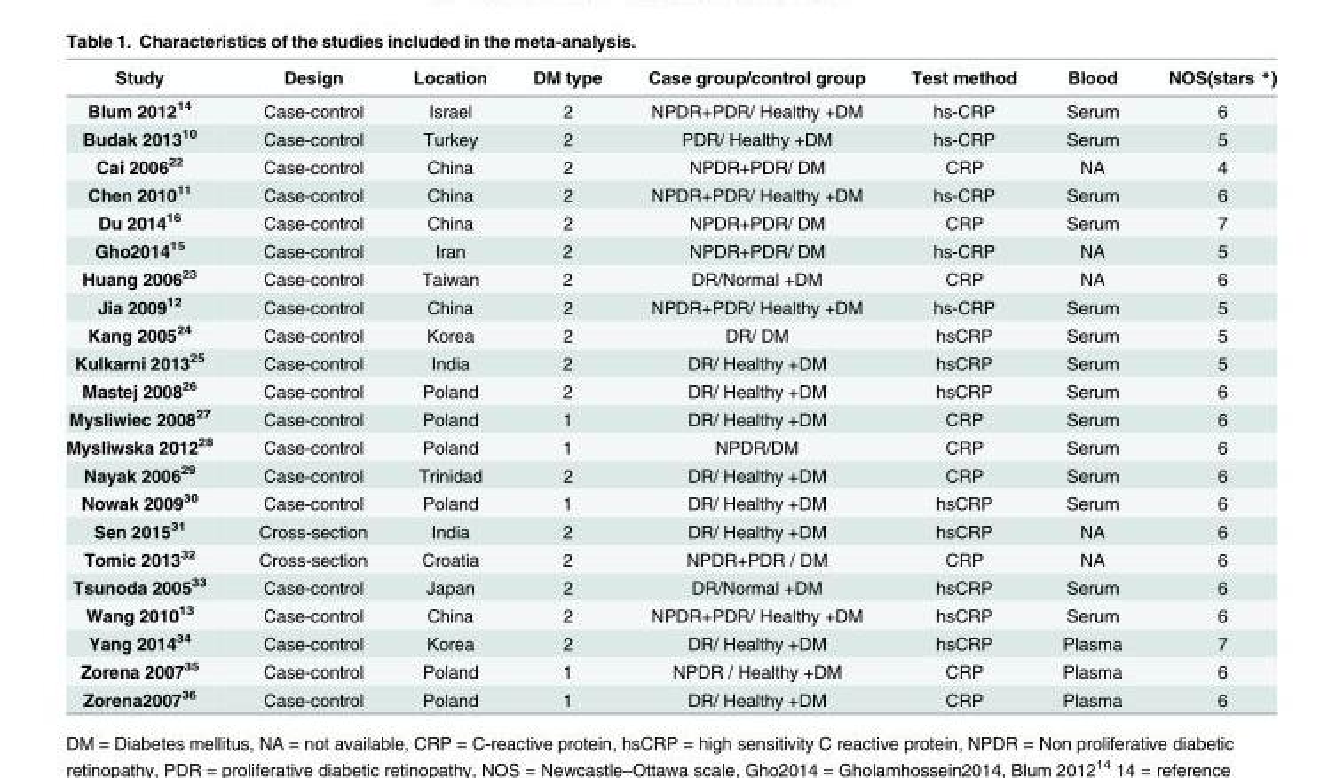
<table><thead><tr><td>Study</td><td>Design</td><td>Location</td><td>DM type</td><td>Case group/control group</td><td>Test method</td><td>Blood</td><td>NOS(stars *)</td></tr></thead><tbody><tr><td>Blum 2012<sup>14</sup></td><td>Case-control</td><td>Israel</td><td>2</td><td>NPDR+PDR/ Healthy +DM</td><td>hs-CRP</td><td>Serum</td><td>6</td></tr><tr><td>Budak 2013<sup>10</sup></td><td>Case-control</td><td>Turkey</td><td>2</td><td>PDR/ Healthy +DM</td><td>hs-CRP</td><td>Serum</td><td>5</td></tr><tr><td>Cai 2006<sup>22</sup></td><td>Case-control</td><td>China</td><td>2</td><td>NPDR+PDR/ DM</td><td>CRP</td><td>NA</td><td>4</td></tr><tr><td>Chen 2010<sup>11</sup></td><td>Case-control</td><td>China</td><td>2</td><td>NPDR+PDR/ Healthy +DM</td><td>hs-CRP</td><td>Serum</td><td>6</td></tr><tr><td>Du 2014<sup>16</sup></td><td>Case-control</td><td>China</td><td>2</td><td>NPDR+PDR/ DM</td><td>CRP</td><td>Serum</td><td>7</td></tr><tr><td>Gho2014<sup>15</sup></td><td>Case-control</td><td>Iran</td><td>2</td><td>NPDR+PDR/ DM</td><td>hs-CRP</td><td>NA</td><td>5</td></tr><tr><td>Huang 2006<sup>23</sup></td><td>Case-control</td><td>Taiwan</td><td>2</td><td>DR/Normal +DM</td><td>CRP</td><td>NA</td><td>6</td></tr><tr><td>Jia 2009<sup>12</sup></td><td>Case-control</td><td>China</td><td>2</td><td>NPDR+PDR/ Healthy +DM</td><td>hs-CRP</td><td>Serum</td><td>5</td></tr><tr><td>Kang 2005<sup>24</sup></td><td>Case-control</td><td>Korea</td><td>2</td><td>DR/ DM</td><td>hsCRP</td><td>Serum</td><td>5</td></tr><tr><td>Kulkarni 2013<sup>25</sup></td><td>Case-control</td><td>India</td><td>2</td><td>DR/ Healthy +DM</td><td>hsCRP</td><td>Serum</td><td>5</td></tr><tr><td>Mastej 2008<sup>26</sup></td><td>Case-control</td><td>Poland</td><td>2</td><td>DR/ Healthy +DM</td><td>hsCRP</td><td>Serum</td><td>6</td></tr><tr><td>Mysliwiec 2008<sup>27</sup></td><td>Case-control</td><td>Poland</td><td>1</td><td>DR/ Healthy +DM</td><td>CRP</td><td>Serum</td><td>6</td></tr><tr><td>Mysliwska 2012<sup>28</sup></td><td>Case-control</td><td>Poland</td><td>1</td><td>NPDR/DM</td><td>CRP</td><td>Serum</td><td>6</td></tr><tr><td>Nayak 2006<sup>29</sup></td><td>Case-control</td><td>Trinidad</td><td>2</td><td>DR/ Healthy +DM</td><td>CRP</td><td>Serum</td><td>6</td></tr><tr><td>Nowak 2009<sup>30</sup></td><td>Case-control</td><td>Poland</td><td>1</td><td>DR/ Healthy +DM</td><td>hsCRP</td><td>Serum</td><td>6</td></tr><tr><td>Sen 2015<sup>31</sup></td><td>Cross-section</td><td>India</td><td>2</td><td>DR/ Healthy +DM</td><td>hsCRP</td><td>NA</td><td>6</td></tr><tr><td>Tomic 2013<sup>32</sup></td><td>Cross-section</td><td>Croatia</td><td>2</td><td>NPDR+PDR / DM</td><td>CRP</td><td>NA</td><td>6</td></tr><tr><td>Tsunoda 2005<sup>33</sup></td><td>Case-control</td><td>Japan</td><td>2</td><td>DR/Normal +DM</td><td>hsCRP</td><td>Serum</td><td>6</td></tr><tr><td>Wang 2010<sup>13</sup></td><td>Case-control</td><td>China</td><td>2</td><td>NPDR+PDR/ Healthy +DM</td><td>hsCRP</td><td>Serum</td><td>6</td></tr><tr><td>Yang 2014<sup>34</sup></td><td>Case-control</td><td>Korea</td><td>2</td><td>DR/ Healthy +DM</td><td>hsCRP</td><td>Plasma</td><td>7</td></tr><tr><td>Zorena 2007<sup>35</sup></td><td>Case-control</td><td>Poland</td><td>1</td><td>NPDR / Healthy +DM</td><td>CRP</td><td>Plasma</td><td>6</td></tr><tr><td>Zorena2007<sup>36</sup></td><td>Case-control</td><td>Poland</td><td>1</td><td>DR/ Healthy +DM</td><td>CRP</td><td>Plasma</td><td>6</td></tr></tbody></table>